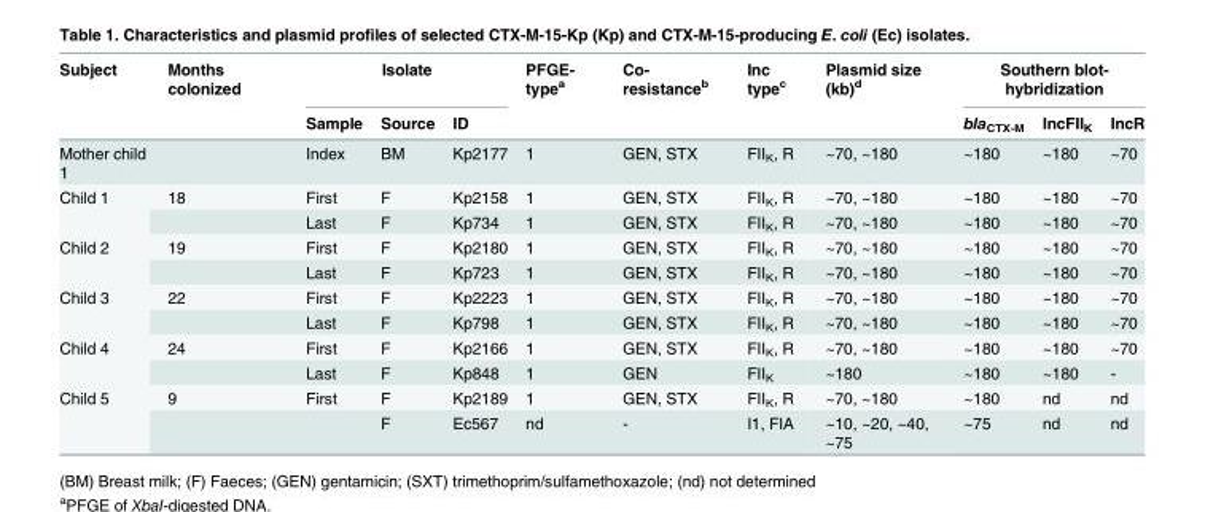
<table><thead><tr><td rowspan="2">Subject</td><td rowspan="2">Months colonized</td><td colspan="3">Isolate</td><td rowspan="2">PFGE- type<sup>a</sup></td><td rowspan="2">Co- resistance<sup>b</sup></td><td rowspan="2">Inc type<sup>c</sup></td><td rowspan="2">Plasmid size (kb)<sup>d</sup></td><td colspan="3">Southern blot- hybridization</td></tr><tr><td>Sample</td><td>Source</td><td>ID</td><td>bla<sub>CTX-M</sub></td><td>IncFII<sub>K</sub></td><td>IncR</td></tr></thead><tbody><tr><td>Mother child 1</td><td></td><td>Index</td><td>BM</td><td>Kp2177</td><td>1</td><td>GEN, STX</td><td>FII<sub>K</sub>, R</td><td>~70, ~180</td><td>~180</td><td>~180</td><td>~70</td></tr><tr><td rowspan="2">Child 1</td><td>18</td><td>First</td><td>F</td><td>Kp2158</td><td>1</td><td>GEN, STX</td><td>FII<sub>K</sub>, R</td><td>~70, ~180</td><td>~180</td><td>~180</td><td>~70</td></tr><tr><td></td><td>Last</td><td>F</td><td>Kp734</td><td>1</td><td>GEN, STX</td><td>FII<sub>K</sub>, R</td><td>~70, ~180</td><td>~180</td><td>~180</td><td>~70</td></tr><tr><td rowspan="2">Child 2</td><td>19</td><td>First</td><td>F</td><td>Kp2180</td><td>1</td><td>GEN, STX</td><td>FII<sub>K</sub>, R</td><td>~70, ~180</td><td>~180</td><td>~180</td><td>~70</td></tr><tr><td></td><td>Last</td><td>F</td><td>Kp723</td><td>1</td><td>GEN, STX</td><td>FII<sub>K</sub>, R</td><td>~70, ~180</td><td>~180</td><td>~180</td><td>~70</td></tr><tr><td rowspan="2">Child 3</td><td>22</td><td>First</td><td>F</td><td>Kp2223</td><td>1</td><td>GEN, STX</td><td>FII<sub>K</sub>, R</td><td>~70, ~180</td><td>~180</td><td>~180</td><td>~70</td></tr><tr><td></td><td>Last</td><td>F</td><td>Kp798</td><td>1</td><td>GEN, STX</td><td>FII<sub>K</sub>, R</td><td>~70, ~180</td><td>~180</td><td>~180</td><td>~70</td></tr><tr><td rowspan="2">Child 4</td><td>24</td><td>First</td><td>F</td><td>Kp2166</td><td>1</td><td>GEN, STX</td><td>FII<sub>K</sub>, R</td><td>~70, ~180</td><td>~180</td><td>~180</td><td>~70</td></tr><tr><td></td><td>Last</td><td>F</td><td>Kp848</td><td>1</td><td>GEN</td><td>FII<sub>K</sub></td><td>~180</td><td>~180</td><td>~180</td><td>-</td></tr><tr><td rowspan="2">Child 5</td><td>9</td><td>First</td><td>F</td><td>Kp2189</td><td>1</td><td>GEN, STX</td><td>FII<sub>K</sub>, R</td><td>~70, ~180</td><td>~180</td><td>nd</td><td>nd</td></tr><tr><td></td><td></td><td>F</td><td>Ec567</td><td>nd</td><td>-</td><td>I1, FIA</td><td>~10, ~20, ~40, ~75</td><td>~75</td><td>nd</td><td>nd</td></tr></tbody></table>